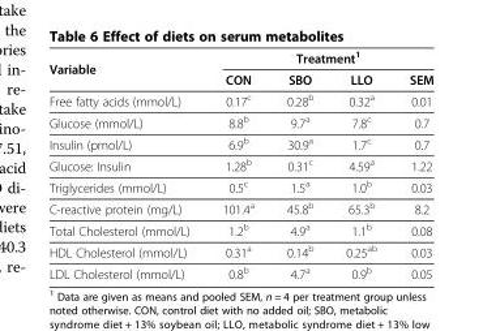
<table><thead><tr><td rowspan="2">Variable</td><td colspan="4">Treatment<sup>1</sup></td></tr><tr><td>CON</td><td>SBO</td><td>LLO</td><td>SEM</td></tr></thead><tbody><tr><td>Free fatty acids (mmol/L)</td><td>0.17<sup>c</sup></td><td>0.28<sup>b</sup></td><td>0.32<sup>a</sup></td><td>0.01</td></tr><tr><td>Glucose (mmol/L)</td><td>8.8<sup>b</sup></td><td>9.7<sup>a</sup></td><td>7.8<sup>c</sup></td><td>0.7</td></tr><tr><td>Insulin (pmol/L)</td><td>6.9<sup>b</sup></td><td>30.9<sup>a</sup></td><td>1.7<sup>c</sup></td><td>0.7</td></tr><tr><td>Glucose: Insulin</td><td>1.28<sup>b</sup></td><td>0.31<sup>c</sup></td><td>4.59<sup>a</sup></td><td>1.22</td></tr><tr><td>Triglycerides (mmol/L)</td><td>0.5<sup>c</sup></td><td>1.5<sup>a</sup></td><td>1.0<sup>b</sup></td><td>0.03</td></tr><tr><td>C-reactive protein (mg/L)</td><td>101.4<sup>a</sup></td><td>45.8<sup>b</sup></td><td>65.3<sup>b</sup></td><td>8.2</td></tr><tr><td>Total Cholesterol (mmol/L)</td><td>1.2<sup>b</sup></td><td>4.9<sup>a</sup></td><td>1.1<sup>b</sup></td><td>0.08</td></tr><tr><td>HDL Cholesterol (mmol/L)</td><td>0.31<sup>a</sup></td><td>0.14<sup>b</sup></td><td>0.25<sup>ab</sup></td><td>0.03</td></tr><tr><td>LDL Cholesterol (mmol/L)</td><td>0.8<sup>b</sup></td><td>4.7<sup>a</sup></td><td>0.9<sup>b</sup></td><td>0.05</td></tr></tbody></table>